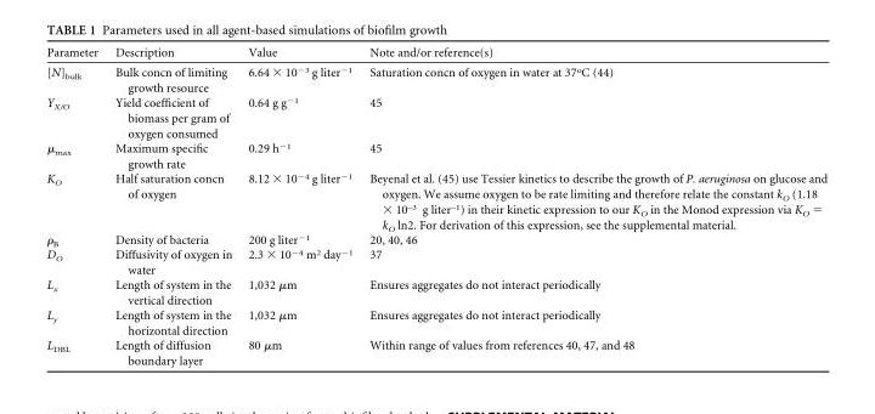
<table><thead><tr><td>Parameter</td><td>Description</td><td>Value</td><td>Note and/or reference(s)</td></tr></thead><tbody><tr><td>[N]<sub>bulk</sub></td><td>Bulk concn of limiting growth resource</td><td>6.64 × 10<sup>−3</sup> g liter<sup>−1</sup></td><td>Saturation concn of oxygen in water at 37<sup>o</sup>C (44)</td></tr><tr><td>Y<sub>X/O</sub></td><td>Yield coefficient of biomass per gram of oxygen consumed</td><td>0.64 g g<sup>−1</sup></td><td>45</td></tr><tr><td>μ<sub>max</sub></td><td>Maximum specific growth rate</td><td>0.29 h<sup>−1</sup></td><td>45</td></tr><tr><td>K<sub>O</sub></td><td>Half saturation concn of oxygen</td><td>8.12 × 10<sup>−4</sup> g liter<sup>−1</sup></td><td>Beyenal et al. (45) use Tessier kinetics to describe the growth of P. aeruginosa on glucose and oxygen. We assume oxygen to be rate limiting and therefore relate the constant k<sub>O</sub> (1.18 × 10<sup>–3</sup> g liter<sup>–1</sup>) in their kinetic expression to our K<sub>O</sub> in the Monod expression via K<sub>O</sub> = k<sub>O</sub> ln2. For derivation of this expression, see the supplemental material.</td></tr><tr><td>ρ<sub>B</sub></td><td>Density of bacteria</td><td>200 g liter<sup>−1</sup></td><td>20, 40, 46</td></tr><tr><td>D<sub>O</sub></td><td>Diffusivity of oxygen in water</td><td>2.3 × 10<sup>−4</sup> m<sup>2</sup> day<sup>−1</sup></td><td>37</td></tr><tr><td>L<sub>x</sub></td><td>Length of system in the vertical direction</td><td>1,032 µm</td><td>Ensures aggregates do not interact periodically</td></tr><tr><td>L<sub>y</sub></td><td>Length of system in the horizontal direction</td><td>1,032 µm</td><td>Ensures aggregates do not interact periodically</td></tr><tr><td>L<sub>DBL</sub></td><td>Length of diffusion boundary layer</td><td>80 µm</td><td>Within range of values from references 40, 47, and 48</td></tr></tbody></table>